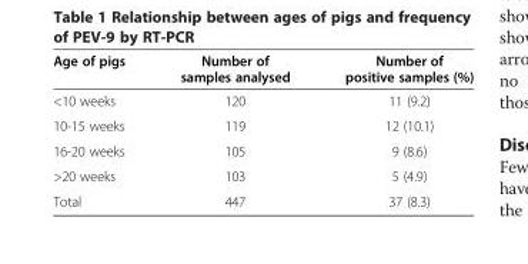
<table><thead><tr><td>Age of pigs</td><td>Number of samples analysed</td><td>Number of positive samples (%)</td></tr></thead><tbody><tr><td>&lt;10 weeks</td><td>120</td><td>11 (9.2)</td></tr><tr><td>10-15 weeks</td><td>119</td><td>12 (10.1)</td></tr><tr><td>16-20 weeks</td><td>105</td><td>9 (8.6)</td></tr><tr><td>&gt;20 weeks</td><td>103</td><td>5 (4.9)</td></tr><tr><td>Total</td><td>447</td><td>37 (8.3)</td></tr></tbody></table>